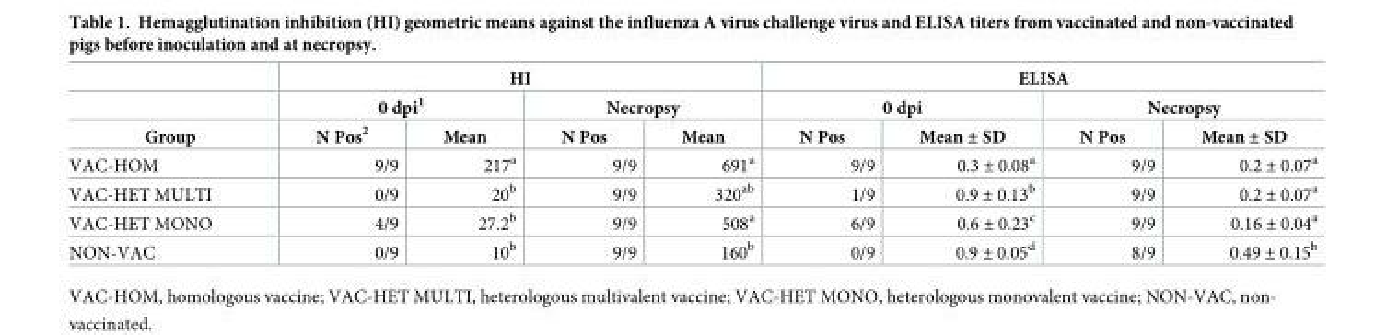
<table><thead><tr><td rowspan="3">Group</td><td colspan="4">HI</td><td colspan="4">ELISA</td></tr><tr><td colspan="2">0 dpi<sup>1</sup></td><td colspan="2">Necropsy</td><td colspan="2">0 dpi</td><td colspan="2">Necropsy</td></tr><tr><td>N Pos<sup>2</sup></td><td>Mean</td><td>N Pos</td><td>Mean</td><td>N Pos</td><td>Mean ± SD</td><td>N Pos</td><td>Mean ± SD</td></tr></thead><tbody><tr><td>VAC-HOM</td><td>9/9</td><td>217<sup>a</sup></td><td>9/9</td><td>691<sup>a</sup></td><td>9/9</td><td>0.3 ± 0.08<sup>a</sup></td><td>9/9</td><td>0.2 ± 0.07<sup>a</sup></td></tr><tr><td>VAC-HET MULTI</td><td>0/9</td><td>20<sup>b</sup></td><td>9/9</td><td>320<sup>ab</sup></td><td>1/9</td><td>0.9 ± 0.13<sup>b</sup></td><td>9/9</td><td>0.2 ± 0.07<sup>a</sup></td></tr><tr><td>VAC-HET MONO</td><td>4/9</td><td>27.2<sup>b</sup></td><td>9/9</td><td>508<sup>a</sup></td><td>6/9</td><td>0.6 ± 0.23<sup>c</sup></td><td>9/9</td><td>0.16 ± 0.04<sup>a</sup></td></tr><tr><td>NON-VAC</td><td>0/9</td><td>10<sup>b</sup></td><td>9/9</td><td>160<sup>b</sup></td><td>0/9</td><td>0.9 ± 0.05<sup>d</sup></td><td>8/9</td><td>0.49 ± 0.15<sup>b</sup></td></tr></tbody></table>